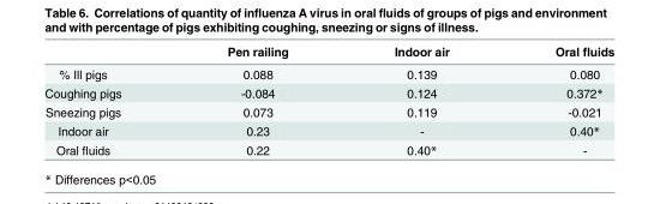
<table><thead><tr><td></td><td>Pen railing</td><td>Indoor air</td><td>Oral fluids</td></tr></thead><tbody><tr><td>% Ill pigs</td><td>0.088</td><td>0.139</td><td>0.080</td></tr><tr><td>Coughing pigs</td><td>-0.084</td><td>0.124</td><td>0.372*</td></tr><tr><td>Sneezing pigs</td><td>0.073</td><td>0.119</td><td>-0.021</td></tr><tr><td>Indoor air</td><td>0.23</td><td>-</td><td>0.40*</td></tr><tr><td>Oral fluids</td><td>0.22</td><td>0.40*</td><td>-</td></tr></tbody></table>